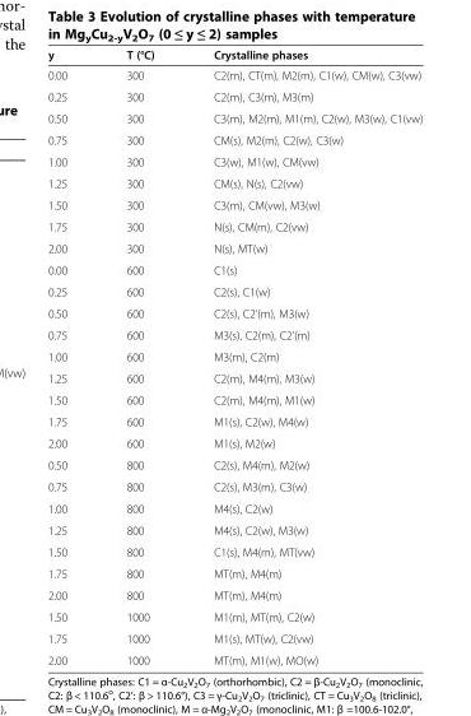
<table><thead><tr><td>y</td><td>T (°C)</td><td>Crystalline phases</td></tr></thead><tbody><tr><td>0.00</td><td>300</td><td>C2(m), CT(m), M2(m), C1(w), CM(w), C3(vw)</td></tr><tr><td>0.25</td><td>300</td><td>C2(m), C3(m), M3(m)</td></tr><tr><td>0.50</td><td>300</td><td>C3(m), M2(m), M1(m), C2(w), M3(w), C1(vw)</td></tr><tr><td>0.75</td><td>300</td><td>CM(s), M2(m), C2(w), C3(w)</td></tr><tr><td>1.00</td><td>300</td><td>C3(w), M1(w), CM(vw)</td></tr><tr><td>1.25</td><td>300</td><td>CM(s), N(s), C2(vw)</td></tr><tr><td>1.50</td><td>300</td><td>C3(m), CM(vw), M3(w)</td></tr><tr><td>1.75</td><td>300</td><td>N(s), CM(m), C2(vw)</td></tr><tr><td>2.00</td><td>300</td><td>N(s), MT(w)</td></tr><tr><td>0.00</td><td>600</td><td>C1(s)</td></tr><tr><td>0.25</td><td>600</td><td>C2(s), C1(w)</td></tr><tr><td>0.50</td><td>600</td><td>C2(s), C2’(m), M3(w)</td></tr><tr><td>0.75</td><td>600</td><td>M3(s), C2(m), C2’(m)</td></tr><tr><td>1.00</td><td>600</td><td>M3(m), C2(m)</td></tr><tr><td>1.25</td><td>600</td><td>C2(m), M4(m), M3(w)</td></tr><tr><td>1.50</td><td>600</td><td>C2(m), M4(m), M1(w)</td></tr><tr><td>1.75</td><td>600</td><td>M1(s), C2(w), M4(w)</td></tr><tr><td>2.00</td><td>600</td><td>M1(s), M2(w)</td></tr><tr><td>0.50</td><td>800</td><td>C2(s), M4(m), M2(w)</td></tr><tr><td>0.75</td><td>800</td><td>C2(s), M3(m), C3(w)</td></tr><tr><td>1.00</td><td>800</td><td>M4(s), C2(w)</td></tr><tr><td>1.25</td><td>800</td><td>M4(s), C2(w), M3(w)</td></tr><tr><td>1.50</td><td>800</td><td>C1(s), M4(m), MT(vw)</td></tr><tr><td>1.75</td><td>800</td><td>MT(m), M4(m)</td></tr><tr><td>2.00</td><td>800</td><td>MT(m), M4(m)</td></tr><tr><td>1.50</td><td>1000</td><td>M1(m), MT(m), C2(w)</td></tr><tr><td>1.75</td><td>1000</td><td>M1(s), MT(w), C2(vw)</td></tr><tr><td>2.00</td><td>1000</td><td>MT(m), M1(w), MO(w)</td></tr></tbody></table>